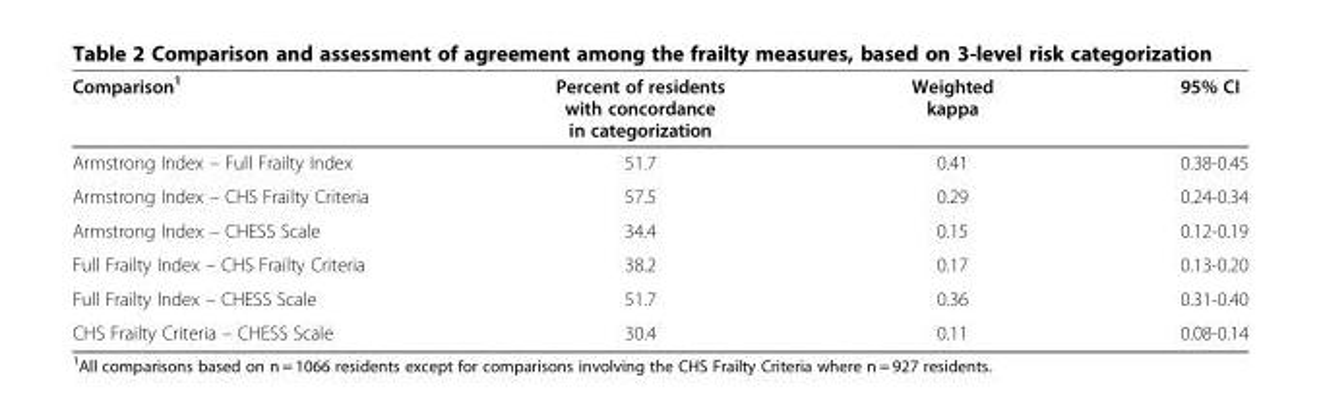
<table><thead><tr><td>Comparison<sup>1</sup></td><td>Percent of residents with concordance in categorization</td><td>Weighted kappa</td><td>95% CI</td></tr></thead><tbody><tr><td>Armstrong Index – Full Frailty Index</td><td>51.7</td><td>0.41</td><td>0.38-0.45</td></tr><tr><td>Armstrong Index – CHS Frailty Criteria</td><td>57.5</td><td>0.29</td><td>0.24-0.34</td></tr><tr><td>Armstrong Index – CHESS Scale</td><td>34.4</td><td>0.15</td><td>0.12-0.19</td></tr><tr><td>Full Frailty Index – CHS Frailty Criteria</td><td>38.2</td><td>0.17</td><td>0.13-0.20</td></tr><tr><td>Full Frailty Index – CHESS Scale</td><td>51.7</td><td>0.36</td><td>0.31-0.40</td></tr><tr><td>CHS Frailty Criteria – CHESS Scale</td><td>30.4</td><td>0.11</td><td>0.08-0.14</td></tr></tbody></table>